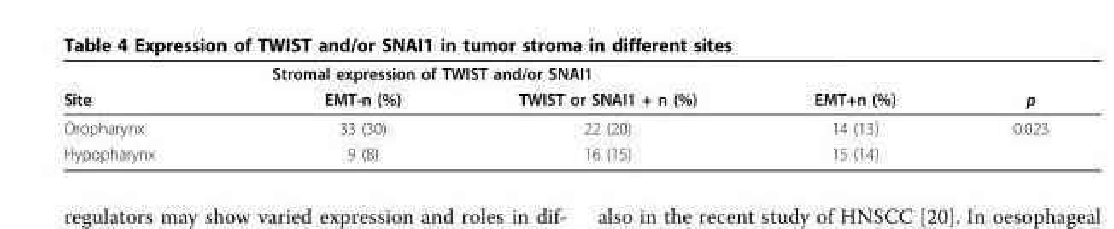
<table><thead><tr><td rowspan="2">Site</td><td colspan="4">Stromal expression of TWIST and/or SNAI1</td></tr><tr><td>EMT-n (%)</td><td>TWIST or SNAI1 + n (%)</td><td>EMT+n (%)</td><td>p</td></tr></thead><tbody><tr><td>Oropharynx</td><td>33 (30)</td><td>22 (20)</td><td>14 (13)</td><td>0.023</td></tr><tr><td>Hypopharynx</td><td>9 (8)</td><td>16 (15)</td><td>15 (14)</td><td></td></tr></tbody></table>